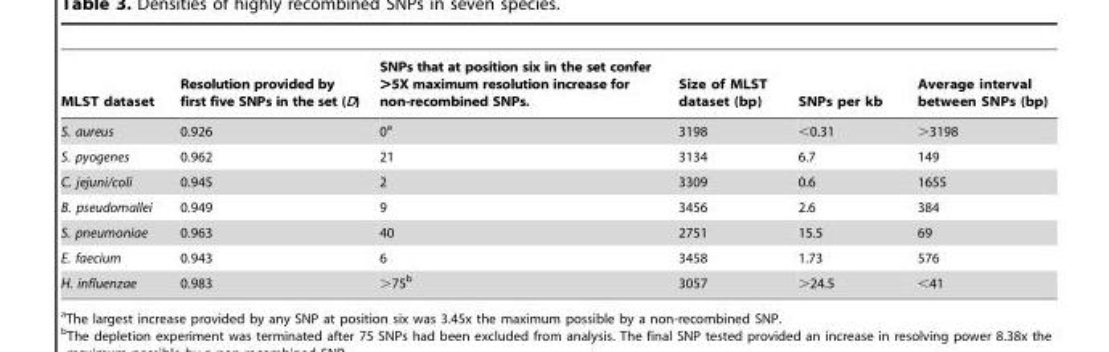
<table><thead><tr><td>MLST dataset</td><td>Resolution provided by first five SNPs in the set (D)</td><td>SNPs that at position six in the set confer &gt;5X maximum resolution increase for non-recombined SNPs.</td><td>Size of MLST dataset (bp)</td><td>SNPs per kb</td><td>Average interval between SNPs (bp)</td></tr></thead><tbody><tr><td>S. aureus</td><td>0.926</td><td>0<sup>a</sup></td><td>3198</td><td>&lt;0.31</td><td>&gt;3198</td></tr><tr><td>S. pyogenes</td><td>0.962</td><td>21</td><td>3134</td><td>6.7</td><td>149</td></tr><tr><td>C. jejuni/coli</td><td>0.945</td><td>2</td><td>3309</td><td>0.6</td><td>1655</td></tr><tr><td>B. pseudomallei</td><td>0.949</td><td>9</td><td>3456</td><td>2.6</td><td>384</td></tr><tr><td>S. pneumoniae</td><td>0.963</td><td>40</td><td>2751</td><td>15.5</td><td>69</td></tr><tr><td>E. faecium</td><td>0.943</td><td>6</td><td>3458</td><td>1.73</td><td>576</td></tr><tr><td>H. influenzae</td><td>0.983</td><td>&gt;75<sup>b</sup></td><td>3057</td><td>&gt;24.5</td><td>&lt;41</td></tr></tbody></table>